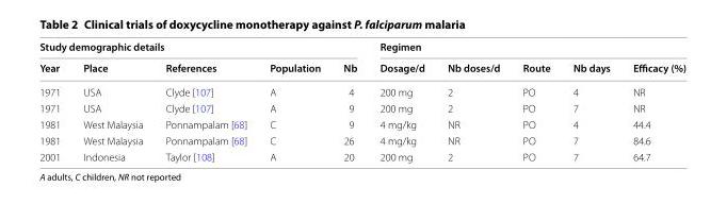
<table><thead><tr><td colspan="5">Study demographic details</td><td colspan="5">Regimen</td></tr><tr><td>Year</td><td>Place</td><td>References</td><td>Population</td><td>Nb</td><td>Dosage/d</td><td>Nb doses/d</td><td>Route</td><td>Nb days</td><td>Efficacy (%)</td></tr></thead><tbody><tr><td>1971</td><td>USA</td><td>Clyde [107]</td><td>A</td><td>4</td><td>200 mg</td><td>2</td><td>PO</td><td>4</td><td>NR</td></tr><tr><td>1971</td><td>USA</td><td>Clyde [107]</td><td>A</td><td>9</td><td>200 mg</td><td>2</td><td>PO</td><td>7</td><td>NR</td></tr><tr><td>1981</td><td>West Malaysia</td><td>Ponnampalam [68]</td><td>C</td><td>9</td><td>4 mg/kg</td><td>NR</td><td>PO</td><td>4</td><td>44.4</td></tr><tr><td>1981</td><td>West Malaysia</td><td>Ponnampalam [68]</td><td>C</td><td>26</td><td>4 mg/kg</td><td>NR</td><td>PO</td><td>7</td><td>84.6</td></tr><tr><td>2001</td><td>Indonesia</td><td>Taylor [108]</td><td>A</td><td>20</td><td>200 mg</td><td>2</td><td>PO</td><td>7</td><td>64.7</td></tr></tbody></table>